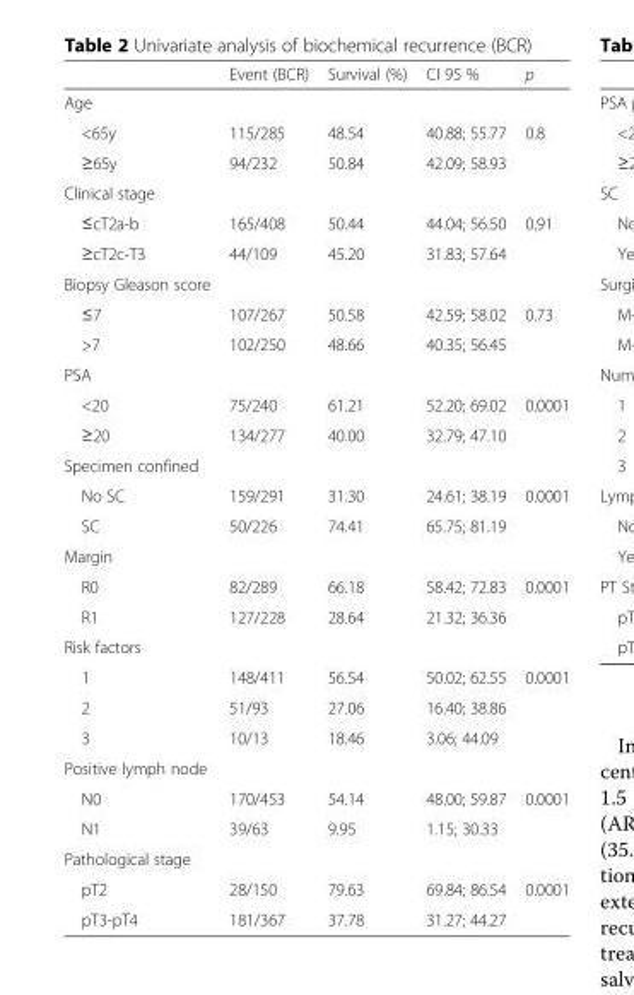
<table><thead><tr><td></td><td>Event (BCR)</td><td>Survival (%)</td><td>CI 95 %</td><td>p</td></tr></thead><tbody><tr><td colspan="5">Age</td></tr><tr><td>&lt;65y</td><td>115/285</td><td>48.54</td><td>40.88; 55.77</td><td>0.8</td></tr><tr><td>≥65y</td><td>94/232</td><td>50.84</td><td>42.09; 58.93</td><td></td></tr><tr><td colspan="5">Clinical stage</td></tr><tr><td>≤cT2a-b</td><td>165/408</td><td>50.44</td><td>44.04; 56.50</td><td>0.91</td></tr><tr><td>≥cT2c-T3</td><td>44/109</td><td>45.20</td><td>31.83; 57.64</td><td></td></tr><tr><td colspan="5">Biopsy Gleason score</td></tr><tr><td>≤7</td><td>107/267</td><td>50.58</td><td>42.59; 58.02</td><td>0.73</td></tr><tr><td>&gt;7</td><td>102/250</td><td>48.66</td><td>40.35; 56.45</td><td></td></tr><tr><td colspan="5">PSA</td></tr><tr><td>&lt;20</td><td>75/240</td><td>61.21</td><td>52.20; 69.02</td><td>0.0001</td></tr><tr><td>≥20</td><td>134/277</td><td>40.00</td><td>32.79; 47.10</td><td></td></tr><tr><td colspan="5">Specimen confined</td></tr><tr><td>No SC</td><td>159/291</td><td>31.30</td><td>24.61; 38.19</td><td>0.0001</td></tr><tr><td>SC</td><td>50/226</td><td>74.41</td><td>65.75; 81.19</td><td></td></tr><tr><td colspan="5">Margin</td></tr><tr><td>R0</td><td>82/289</td><td>66.18</td><td>58.42; 72.83</td><td>0.0001</td></tr><tr><td>R1</td><td>127/228</td><td>28.64</td><td>21.32; 36.36</td><td></td></tr><tr><td colspan="5">Risk factors</td></tr><tr><td>1</td><td>148/411</td><td>56.54</td><td>50.02; 62.55</td><td>0.0001</td></tr><tr><td>2</td><td>51/93</td><td>27.06</td><td>16.40; 38.86</td><td></td></tr><tr><td>3</td><td>10/13</td><td>18.46</td><td>3.06; 44.09</td><td></td></tr><tr><td colspan="5">Positive lymph node</td></tr><tr><td>N0</td><td>170/453</td><td>54.14</td><td>48.00; 59.87</td><td>0.0001</td></tr><tr><td>N1</td><td>39/63</td><td>9.95</td><td>1.15; 30.33</td><td></td></tr><tr><td colspan="5">Pathological stage</td></tr><tr><td>pT2</td><td>28/150</td><td>79.63</td><td>69.84; 86.54</td><td>0.0001</td></tr><tr><td>pT3-pT4</td><td>181/367</td><td>37.78</td><td>31.27; 44.27</td><td></td></tr></tbody></table>